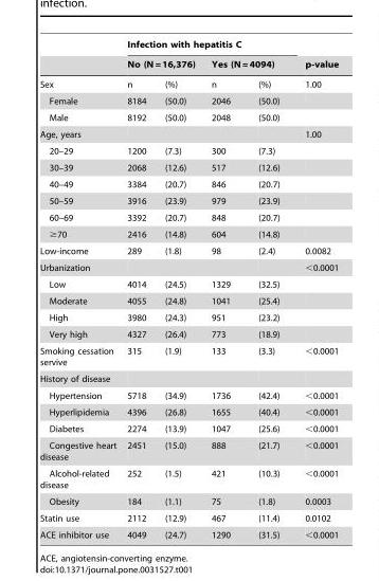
<table><thead><tr><td rowspan="3">Sex</td><td colspan="4">Infection with hepatitis C</td><td rowspan="3">p-value 1.00</td></tr><tr><td colspan="2">No (N = 16,376)</td><td colspan="2">Yes (N = 4094)</td></tr><tr><td>n</td><td>(%)</td><td>n</td><td>(%)</td></tr></thead><tbody><tr><td>Female</td><td>8184</td><td>(50.0)</td><td>2046</td><td>(50.0)</td><td></td></tr><tr><td>Male</td><td>8192</td><td>(50.0)</td><td>2048</td><td>(50.0)</td><td></td></tr><tr><td>Age, years</td><td></td><td></td><td></td><td></td><td>1.00</td></tr><tr><td>20–29</td><td>1200</td><td>(7.3)</td><td>300</td><td>(7.3)</td><td></td></tr><tr><td>30–39</td><td>2068</td><td>(12.6)</td><td>517</td><td>(12.6)</td><td></td></tr><tr><td>40–49</td><td>3384</td><td>(20.7)</td><td>846</td><td>(20.7)</td><td></td></tr><tr><td>50–59</td><td>3916</td><td>(23.9)</td><td>979</td><td>(23.9)</td><td></td></tr><tr><td>60–69</td><td>3392</td><td>(20.7)</td><td>848</td><td>(20.7)</td><td></td></tr><tr><td>≥70</td><td>2416</td><td>(14.8)</td><td>604</td><td>(14.8)</td><td></td></tr><tr><td>Low-income</td><td>289</td><td>(1.8)</td><td>98</td><td>(2.4)</td><td>0.0082</td></tr><tr><td>Urbanization</td><td></td><td></td><td></td><td></td><td>&lt;0.0001</td></tr><tr><td>Low</td><td>4014</td><td>(24.5)</td><td>1329</td><td>(32.5)</td><td></td></tr><tr><td>Moderate</td><td>4055</td><td>(24.8)</td><td>1041</td><td>(25.4)</td><td></td></tr><tr><td>High</td><td>3980</td><td>(24.3)</td><td>951</td><td>(23.2)</td><td></td></tr><tr><td>Very high</td><td>4327</td><td>(26.4)</td><td>773</td><td>(18.9)</td><td></td></tr><tr><td>Smoking cessation servive</td><td>315</td><td>(1.9)</td><td>133</td><td>(3.3)</td><td>&lt;0.0001</td></tr><tr><td colspan="6">History of disease</td></tr><tr><td>Hypertension</td><td>5718</td><td>(34.9)</td><td>1736</td><td>(42.4)</td><td>&lt;0.0001</td></tr><tr><td>Hyperlipidemia</td><td>4396</td><td>(26.8)</td><td>1655</td><td>(40.4)</td><td>&lt;0.0001</td></tr><tr><td>Diabetes</td><td>2274</td><td>(13.9)</td><td>1047</td><td>(25.6)</td><td>&lt;0.0001</td></tr><tr><td>Congestive heart disease</td><td>2451</td><td>(15.0)</td><td>888</td><td>(21.7)</td><td>&lt;0.0001</td></tr><tr><td>Alcohol-related disease</td><td>252</td><td>(1.5)</td><td>421</td><td>(10.3)</td><td>&lt;0.0001</td></tr><tr><td>Obesity</td><td>184</td><td>(1.1)</td><td>75</td><td>(1.8)</td><td>0.0003</td></tr><tr><td>Statin use</td><td>2112</td><td>(12.9)</td><td>467</td><td>(11.4)</td><td>0.0102</td></tr><tr><td>ACE inhibitor use</td><td>4049</td><td>(24.7)</td><td>1290</td><td>(31.5)</td><td>&lt;0.0001</td></tr></tbody></table>